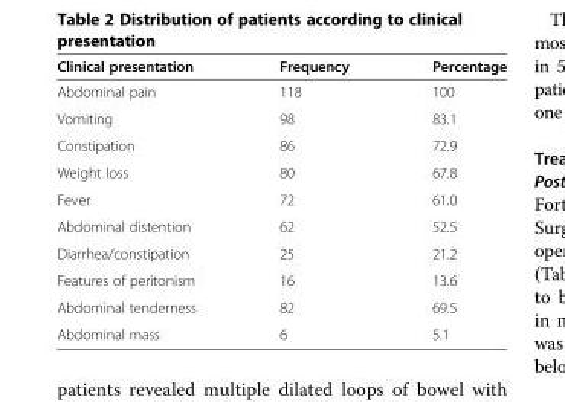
<table><thead><tr><td>Clinical presentation</td><td>Frequency</td><td>Percentage</td></tr></thead><tbody><tr><td>Abdominal pain</td><td>118</td><td>100</td></tr><tr><td>Vomiting</td><td>98</td><td>83.1</td></tr><tr><td>Constipation</td><td>86</td><td>72.9</td></tr><tr><td>Weight loss</td><td>80</td><td>67.8</td></tr><tr><td>Fever</td><td>72</td><td>61.0</td></tr><tr><td>Abdominal distention</td><td>62</td><td>52.5</td></tr><tr><td>Diarrhea/constipation</td><td>25</td><td>21.2</td></tr><tr><td>Features of peritonism</td><td>16</td><td>13.6</td></tr><tr><td>Abdominal tenderness</td><td>82</td><td>69.5</td></tr><tr><td>Abdominal mass</td><td>6</td><td>5.1</td></tr></tbody></table>